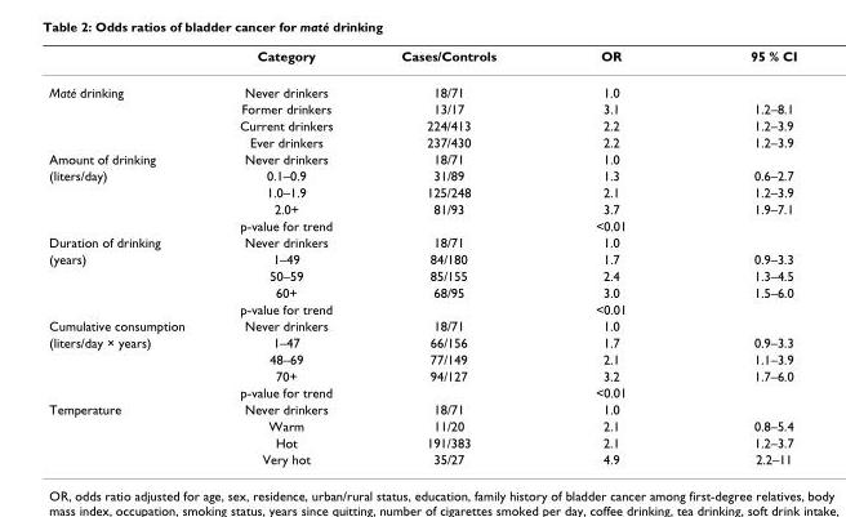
<table><thead><tr><td></td><td>Category</td><td>Cases/Controls</td><td>OR</td><td>95 % CI</td></tr></thead><tbody><tr><td rowspan="4">Maté drinking</td><td>Never drinkers</td><td>18/71</td><td>1.0</td><td></td></tr><tr><td>Former drinkers</td><td>13/17</td><td>3.1</td><td>1.2–8.1</td></tr><tr><td>Current drinkers</td><td>224/413</td><td>2.2</td><td>1.2–3.9</td></tr><tr><td>Ever drinkers</td><td>237/430</td><td>2.2</td><td>1.2–3.9</td></tr><tr><td>Amount of drinking</td><td>Never drinkers</td><td>18/71</td><td>1.0</td><td></td></tr><tr><td rowspan="4">(liters/day)</td><td>0.1–0.9</td><td>31/89</td><td>1.3</td><td>0.6–2.7</td></tr><tr><td>1.0–1.9</td><td>125/248</td><td>2.1</td><td>1.2–3.9</td></tr><tr><td>2.0+</td><td>81/93</td><td>3.7</td><td>1.9–7.1</td></tr><tr><td>p-value for trend</td><td></td><td>&lt;0.01</td><td></td></tr><tr><td>Duration of drinking</td><td>Never drinkers</td><td>18/71</td><td>1.0</td><td></td></tr><tr><td rowspan="4">(years)</td><td>1–49</td><td>84/180</td><td>1.7</td><td>0.9–3.3</td></tr><tr><td>50–59</td><td>85/155</td><td>2.4</td><td>1.3–4.5</td></tr><tr><td>60+</td><td>68/95</td><td>3.0</td><td>1.5–6.0</td></tr><tr><td>p-value for trend</td><td></td><td>&lt;0.01</td><td></td></tr><tr><td>Cumulative consumption</td><td>Never drinkers</td><td>18/71</td><td>1.0</td><td></td></tr><tr><td rowspan="4">(liters/day × years)</td><td>1–47</td><td>66/156</td><td>1.7</td><td>0.9–3.3</td></tr><tr><td>48–69</td><td>77/149</td><td>2.1</td><td>1.1–3.9</td></tr><tr><td>70+</td><td>94/127</td><td>3.2</td><td>1.7–6.0</td></tr><tr><td>p-value for trend</td><td></td><td>&lt;0.01</td><td></td></tr><tr><td rowspan="4">Temperature</td><td>Never drinkers</td><td>18/71</td><td>1.0</td><td></td></tr><tr><td>Warm</td><td>11/20</td><td>2.1</td><td>0.8–5.4</td></tr><tr><td>Hot</td><td>191/383</td><td>2.1</td><td>1.2–3.7</td></tr><tr><td>Very hot</td><td>35/27</td><td>4.9</td><td>2.2–11</td></tr></tbody></table>